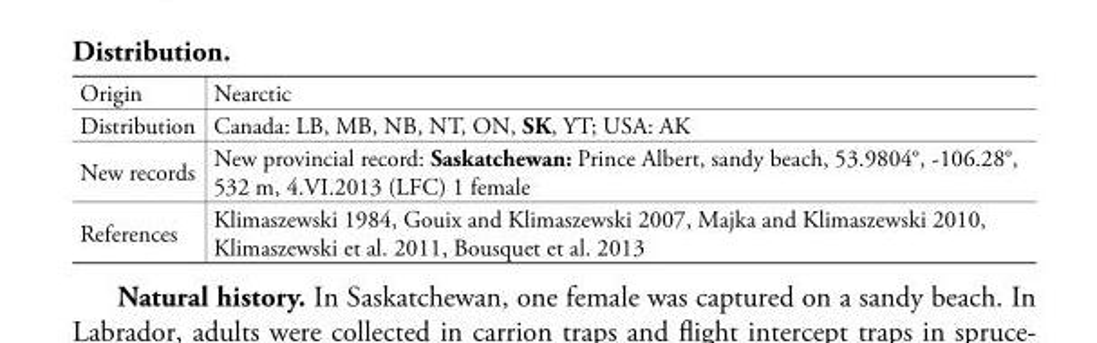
<table><tbody><tr><td>Origin</td><td>Nearctic</td></tr><tr><td>Distribution</td><td>Canada: LB, MB, NB, NT, ON, SK, YT; USA: AK</td></tr><tr><td>New records</td><td>New provincial record: Saskatchewan: Prince Albert, sandy beach, 53.9804°, -106.28°, 532 m, 4.VI.2013 (LFC) 1 female</td></tr><tr><td>References</td><td>Klimaszewski 1984, Gouix and Klimaszewski 2007, Majka and Klimaszewski 2010, Klimaszewski et al. 2011, Bousquet et al. 2013</td></tr></tbody></table>